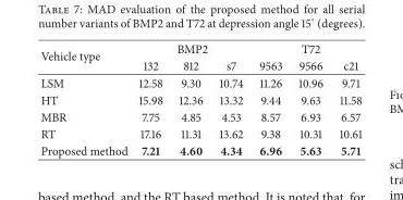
<table><thead><tr><td rowspan="2">Vehicle type</td><td colspan="3">BMP2</td><td colspan="3">T72</td></tr><tr><td>132</td><td>812</td><td>s7</td><td>9563</td><td>9566</td><td>c21</td></tr></thead><tbody><tr><td>LSM</td><td>12.58</td><td>9.30</td><td>10.74</td><td>11.26</td><td>10.96</td><td>9.71</td></tr><tr><td>HT</td><td>15.98</td><td>12.36</td><td>13.32</td><td>9.44</td><td>9.63</td><td>11.58</td></tr><tr><td>MBR</td><td>7.75</td><td>4.85</td><td>4.53</td><td>8.57</td><td>6.93</td><td>6.57</td></tr><tr><td>RT</td><td>17.16</td><td>11.31</td><td>13.62</td><td>9.38</td><td>10.31</td><td>10.61</td></tr><tr><td>Proposed method</td><td>7.21</td><td>4.60</td><td>4.34</td><td>6.96</td><td>5.63</td><td>5.71</td></tr></tbody></table>